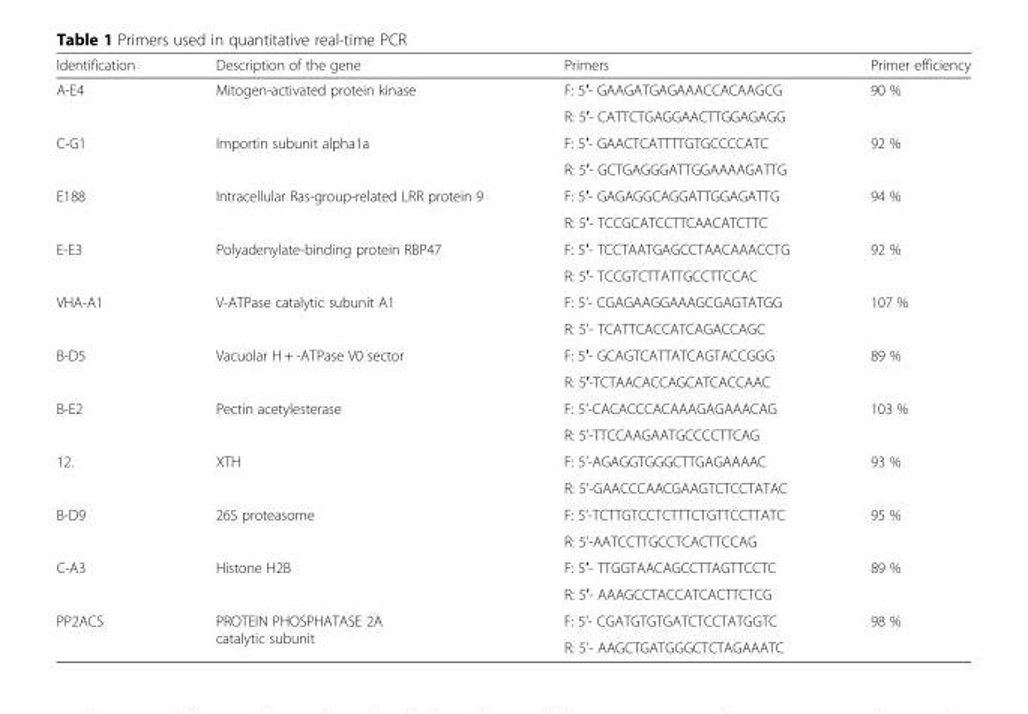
<table><thead><tr><td>Identification</td><td>Description of the gene</td><td>Primers</td><td>Primer efficiency</td></tr></thead><tbody><tr><td rowspan="2">A-E4</td><td rowspan="2">Mitogen-activated protein kinase</td><td>F: 5′- GAAGATGAGAAACCACAAGCG</td><td rowspan="2">90 %</td></tr><tr><td>R: 5′- CATTCTGAGGAACTTGGAGAGG</td></tr><tr><td rowspan="2">C-G1</td><td rowspan="2">Importin subunit alpha1a</td><td>F: 5′- GAACTCATTTTGTGCCCCATC</td><td rowspan="2">92 %</td></tr><tr><td>R: 5′- GCTGAGGGATTGGAAAAGATTG</td></tr><tr><td rowspan="2">E188</td><td rowspan="2">Intracellular Ras-group-related LRR protein 9</td><td>F: 5′- GAGAGGCAGGATTGGAGATTG</td><td rowspan="2">94 %</td></tr><tr><td>R: 5′- TCCGCATCCTTCAACATCTTC</td></tr><tr><td rowspan="2">E-E3</td><td rowspan="2">Polyadenylate-binding protein RBP47</td><td>F: 5′- TCCTAATGAGCCTAACAAACCTG</td><td rowspan="2">92 %</td></tr><tr><td>R: 5′- TCCGTCTTATTGCCTTCCAC</td></tr><tr><td rowspan="2">VHA-A1</td><td rowspan="2">V-ATPase catalytic subunit A1</td><td>F: 5’- CGAGAAGGAAAGCGAGTATGG</td><td rowspan="2">107 %</td></tr><tr><td>R: 5’- TCATTCACCATCAGACCAGC</td></tr><tr><td rowspan="2">B-D5</td><td rowspan="2">Vacuolar H + -ATPase V0 sector</td><td>F: 5′- GCAGTCATTATCAGTACCGGG</td><td rowspan="2">89 %</td></tr><tr><td>R: 5′-TCTAACACCAGCATCACCAAC</td></tr><tr><td rowspan="2">B-E2</td><td rowspan="2">Pectin acetylesterase</td><td>F: 5’-CACACCCACAAAGAGAAACAG</td><td rowspan="2">103 %</td></tr><tr><td>R: 5’-TTCCAAGAATGCCCCTTCAG</td></tr><tr><td rowspan="2">12.</td><td rowspan="2">XTH</td><td>F: 5’-AGAGGTGGGCTTGAGAAAAC</td><td rowspan="2">93 %</td></tr><tr><td>R: 5’-GAACCCAACGAAGTCTCCTATAC</td></tr><tr><td rowspan="2">B-D9</td><td rowspan="2">26S proteasome</td><td>F: 5’-TCTTGTCCTCTTTCTGTTCCTTATC</td><td rowspan="2">95 %</td></tr><tr><td>R: 5’-AATCCTTGCCTCACTTCCAG</td></tr><tr><td rowspan="2">C-A3</td><td rowspan="2">Histone H2B</td><td>F: 5′- TTGGTAACAGCCTTAGTTCCTC</td><td rowspan="2">89 %</td></tr><tr><td>R: 5′- AAAGCCTACCATCACTTCTCG</td></tr><tr><td rowspan="2">PP2ACS</td><td rowspan="2">PROTEIN PHOSPHATASE 2A catalytic subunit</td><td>F: 5’- CGATGTGTGATCTCCTATGGTC</td><td rowspan="2">98 %</td></tr><tr><td>R: 5’- AAGCTGATGGGCTCTAGAAATC</td></tr></tbody></table>